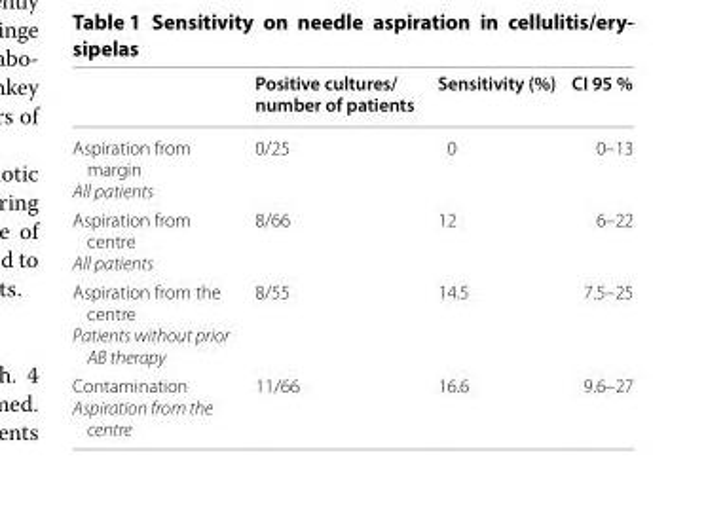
<table><thead><tr><td></td><td>Positive cultures/ number of patients</td><td>Sensitivity (%)</td><td>CI 95 %</td></tr></thead><tbody><tr><td>Aspiration from margin All patients</td><td>0/25</td><td>0</td><td>0–13</td></tr><tr><td>Aspiration from centre All patients</td><td>8/66</td><td>12</td><td>6–22</td></tr><tr><td>Aspiration from the centre Patients without prior AB therapy</td><td>8/55</td><td>14.5</td><td>7.5–25</td></tr><tr><td>Contamination Aspiration from the centre</td><td>11/66</td><td>16.6</td><td>9.6–27</td></tr></tbody></table>